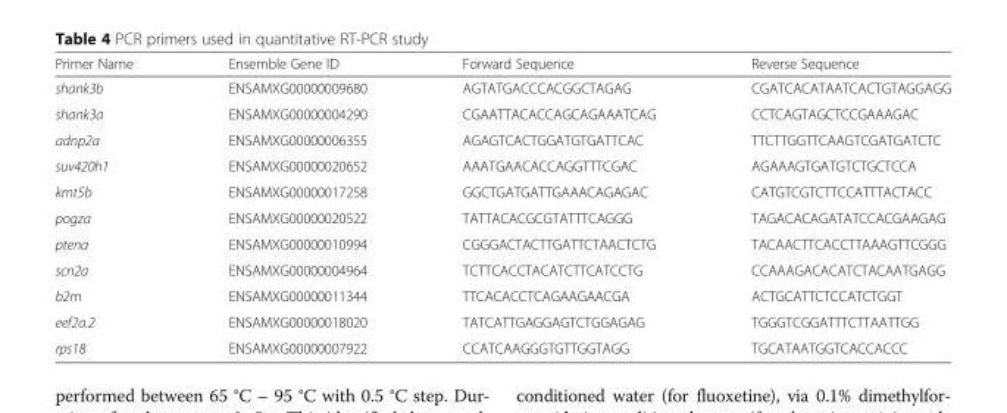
<table><thead><tr><td>Primer Name</td><td>Ensemble Gene ID</td><td>Forward Sequence</td><td>Reverse Sequence</td></tr></thead><tbody><tr><td>shank3b</td><td>ENSAMXG00000009680</td><td>AGTATGACCCACGGCTAGAG</td><td>CGATCACATAATCACTGTAGGAGG</td></tr><tr><td>shank3a</td><td>ENSAMXG00000004290</td><td>CGAATTACACCAGCAGAAATCAG</td><td>CCTCAGTAGCTCCGAAAGAC</td></tr><tr><td>adnp2a</td><td>ENSAMXG00000006355</td><td>AGAGTCACTGGATGTGATTCAC</td><td>TTCTTGGTTCAAGTCGATGATCTC</td></tr><tr><td>suv420h1</td><td>ENSAMXG00000020652</td><td>AAATGAACACCAGGTTTCGAC</td><td>AGAAAGTGATGTCTGCTCCA</td></tr><tr><td>kmt5b</td><td>ENSAMXG00000017258</td><td>GGCTGATGATTGAAACAGAGAC</td><td>CATGTCGTCTTCCATTTACTACC</td></tr><tr><td>pogza</td><td>ENSAMXG00000020522</td><td>TATTACACGCGTATTTCAGGG</td><td>TAGACACAGATATCCACGAAGAG</td></tr><tr><td>ptena</td><td>ENSAMXG00000010994</td><td>CGGGACTACTTGATTCTAACTCTG</td><td>TACAACTTCACCTTAAAGTTCGGG</td></tr><tr><td>scn2a</td><td>ENSAMXG00000004964</td><td>TCTTCACCTACATCTTCATCCTG</td><td>CCAAAGACACATCTACAATGAGG</td></tr><tr><td>b2m</td><td>ENSAMXG00000011344</td><td>TTCACACCTCAGAAGAACGA</td><td>ACTGCATTCTCCATCTGGT</td></tr><tr><td>eef2a.2</td><td>ENSAMXG00000018020</td><td>TATCATTGAGGAGTCTGGAGAG</td><td>TGGGTCGGATTTCTTAATTGG</td></tr><tr><td>rps18</td><td>ENSAMXG00000007922</td><td>CCATCAAGGGTGTTGGTAGG</td><td>TGCATAATGGTCACCACCC</td></tr></tbody></table>